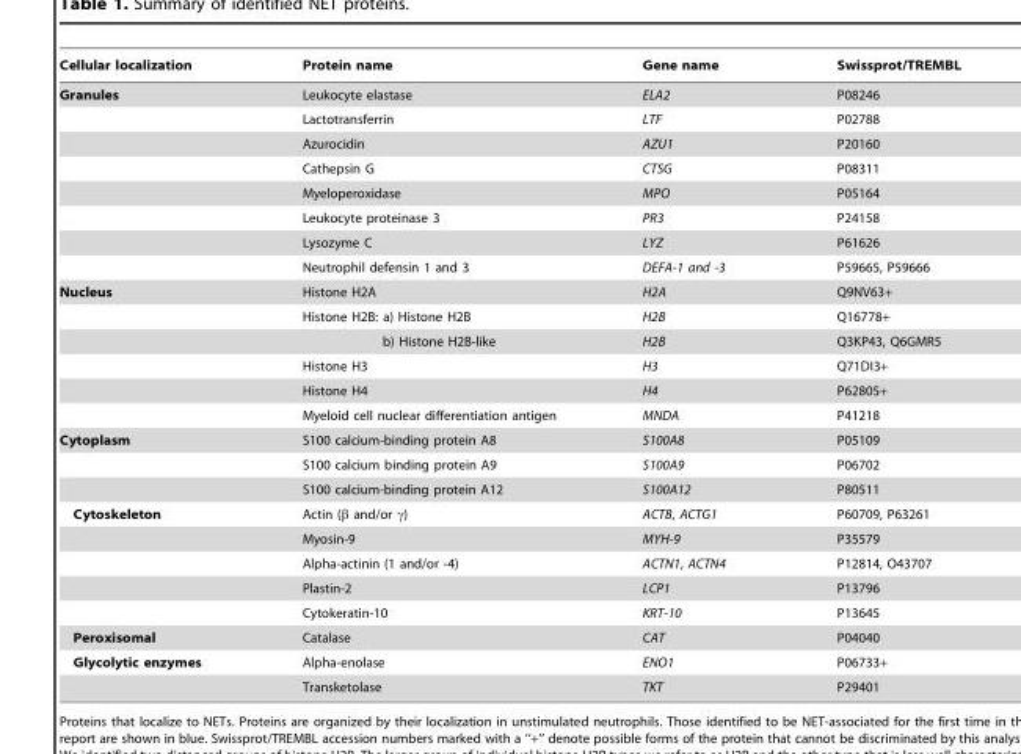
<table><thead><tr><td>Cellular localization</td><td>Protein name</td><td>Gene name</td><td>Swissprot/TREMBL</td></tr></thead><tbody><tr><td rowspan="8">Granules</td><td>Leukocyte elastase</td><td>ELA2</td><td>P08246</td></tr><tr><td>Lactotransferrin</td><td>LTF</td><td>P02788</td></tr><tr><td>Azurocidin</td><td>AZU1</td><td>P20160</td></tr><tr><td>Cathepsin G</td><td>CTSG</td><td>P08311</td></tr><tr><td>Myeloperoxidase</td><td>MPO</td><td>P05164</td></tr><tr><td>Leukocyte proteinase 3</td><td>PR3</td><td>P24158</td></tr><tr><td>Lysozyme C</td><td>LYZ</td><td>P61626</td></tr><tr><td>Neutrophil defensin 1 and 3</td><td>DEFA-1 and -3</td><td>P59665, P59666</td></tr><tr><td rowspan="6">Nucleus</td><td>Histone H2A</td><td>H2A</td><td>Q9NV63+</td></tr><tr><td>Histone H2B: a) Histone H2B</td><td>H2B</td><td>Q16778+</td></tr><tr><td>b) Histone H2B-like</td><td>H2B</td><td>Q3KP43, Q6GMR5</td></tr><tr><td>Histone H3</td><td>H3</td><td>Q71DI3+</td></tr><tr><td>Histone H4</td><td>H4</td><td>P62805+</td></tr><tr><td>Myeloid cell nuclear differentiation antigen</td><td>MNDA</td><td>P41218</td></tr><tr><td rowspan="3">Cytoplasm</td><td>S100 calcium-binding protein A8</td><td>S100A8</td><td>P05109</td></tr><tr><td>S100 calcium binding protein A9</td><td>S100A9</td><td>P06702</td></tr><tr><td>S100 calcium-binding protein A12</td><td>S100A12</td><td>P80511</td></tr><tr><td rowspan="5">Cytoskeleton</td><td>Actin (P and/or R)</td><td>ACTB, ACTG1</td><td>P60709, P63261</td></tr><tr><td>Myosin-9</td><td>MYH-9</td><td>P35579</td></tr><tr><td>Alpha-actinin (1 and/or -4)</td><td>ACTN1, ACTN4</td><td>P12814, O43707</td></tr><tr><td>Plastin-2</td><td>LCP1</td><td>P13796</td></tr><tr><td>Cytokeratin-10</td><td>KRT-10</td><td>P13645</td></tr><tr><td>Peroxisomal</td><td>Catalase</td><td>CAT</td><td>P04040</td></tr><tr><td rowspan="2">Glycolytic enzymes</td><td>Alpha-enolase</td><td>ENO1</td><td>P06733+</td></tr><tr><td>Transketolase</td><td>TKT</td><td>P29401</td></tr></tbody></table>